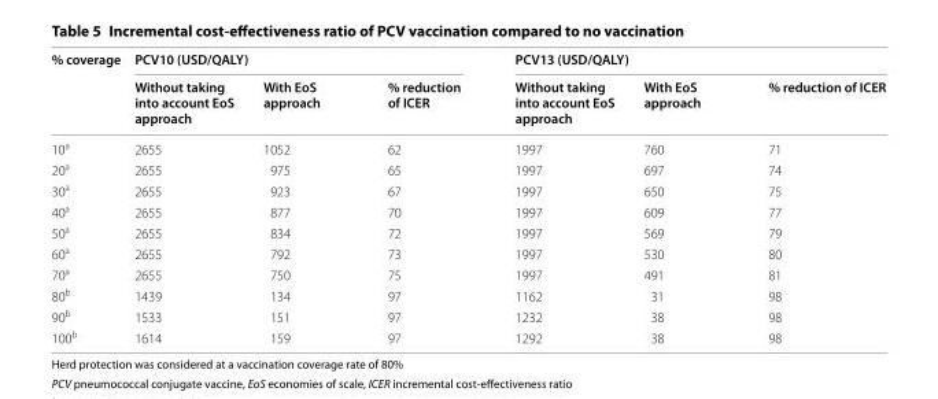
<table><thead><tr><td rowspan="2">% coverage</td><td colspan="3">PCV10 (USD/QALY)</td><td colspan="3">PCV13 (USD/QALY)</td></tr><tr><td>Without taking into account EoS approach</td><td>With EoS approach</td><td>% reduction of ICER</td><td>Without taking into account EoS approach</td><td>With EoS approach</td><td>% reduction of ICER</td></tr></thead><tbody><tr><td>10<sup>a</sup></td><td>2655</td><td>1052</td><td>62</td><td>1997</td><td>760</td><td>71</td></tr><tr><td>20<sup>a</sup></td><td>2655</td><td>975</td><td>65</td><td>1997</td><td>697</td><td>74</td></tr><tr><td>30<sup>a</sup></td><td>2655</td><td>923</td><td>67</td><td>1997</td><td>650</td><td>75</td></tr><tr><td>40<sup>a</sup></td><td>2655</td><td>877</td><td>70</td><td>1997</td><td>609</td><td>77</td></tr><tr><td>50<sup>a</sup></td><td>2655</td><td>834</td><td>72</td><td>1997</td><td>569</td><td>79</td></tr><tr><td>60<sup>a</sup></td><td>2655</td><td>792</td><td>73</td><td>1997</td><td>530</td><td>80</td></tr><tr><td>70<sup>a</sup></td><td>2655</td><td>750</td><td>75</td><td>1997</td><td>491</td><td>81</td></tr><tr><td>80<sup>b</sup></td><td>1439</td><td>134</td><td>97</td><td>1162</td><td>31</td><td>98</td></tr><tr><td>90<sup>b</sup></td><td>1533</td><td>151</td><td>97</td><td>1232</td><td>38</td><td>98</td></tr><tr><td>100<sup>b</sup></td><td>1614</td><td>159</td><td>97</td><td>1292</td><td>38</td><td>98</td></tr></tbody></table>